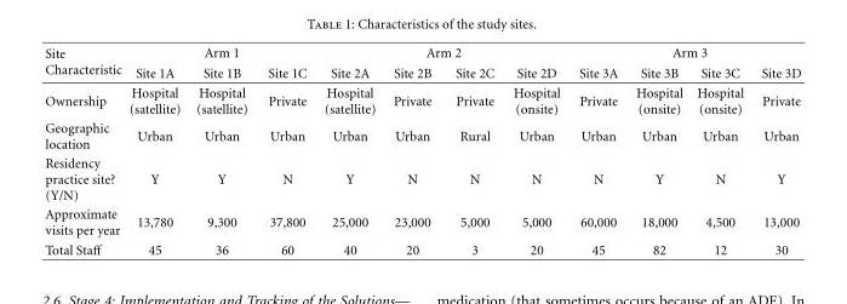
<table><thead><tr><td rowspan="2">Site Characteristic</td><td colspan="3">Arm 1</td><td colspan="4">Arm 2</td><td colspan="4">Arm 3</td></tr><tr><td>Site 1A</td><td>Site 1B</td><td>Site 1C</td><td>Site 2A</td><td>Site 2B</td><td>Site 2C</td><td>Site 2D</td><td>Site 3A</td><td>Site 3B</td><td>Site 3C</td><td>Site 3D</td></tr></thead><tbody><tr><td>Ownership</td><td>Hospital (satellite)</td><td>Hospital (satellite)</td><td>Private</td><td>Hospital (satellite)</td><td>Private</td><td>Private</td><td>Hospital (onsite)</td><td>Private</td><td>Hospital (onsite)</td><td>Hospital (onsite)</td><td>Private</td></tr><tr><td>Geographic location</td><td>Urban</td><td>Urban</td><td>Urban</td><td>Urban</td><td>Urban</td><td>Rural</td><td>Urban</td><td>Urban</td><td>Urban</td><td>Urban</td><td>Urban</td></tr><tr><td>Residency practice site? (Y/N)</td><td>Y</td><td>Y</td><td>N</td><td>Y</td><td>N</td><td>N</td><td>N</td><td>N</td><td>Y</td><td>N</td><td>Y</td></tr><tr><td>Approximate visits per year</td><td>13,780</td><td>9,300</td><td>37,800</td><td>25,000</td><td>23,000</td><td>5,000</td><td>5,000</td><td>60,000</td><td>18,000</td><td>4,500</td><td>13,000</td></tr><tr><td>Total Staff</td><td>45</td><td>36</td><td>60</td><td>40</td><td>20</td><td>3</td><td>20</td><td>45</td><td>82</td><td>12</td><td>30</td></tr></tbody></table>